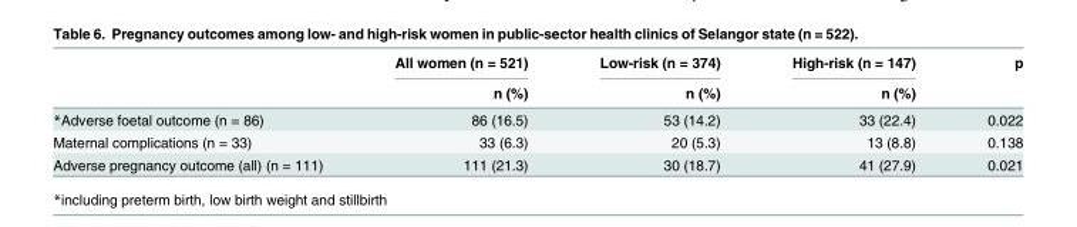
<table><thead><tr><td rowspan="2"></td><td rowspan="2">All women (n = 521) n (%)</td><td rowspan="2">Low-risk (n = 374) n (%)</td><td rowspan="2">High-risk (n = 147) n (%)</td><td rowspan="2">p</td></tr><tr></tr></thead><tbody><tr><td>*Adverse foetal outcome (n = 86)</td><td>86 (16.5)</td><td>53 (14.2)</td><td>33 (22.4)</td><td>0.022</td></tr><tr><td>Maternal complications (n = 33)</td><td>33 (6.3)</td><td>20 (5.3)</td><td>13 (8.8)</td><td>0.138</td></tr><tr><td>Adverse pregnancy outcome (all) (n = 111)</td><td>111 (21.3)</td><td>30 (18.7)</td><td>41 (27.9)</td><td>0.021</td></tr></tbody></table>